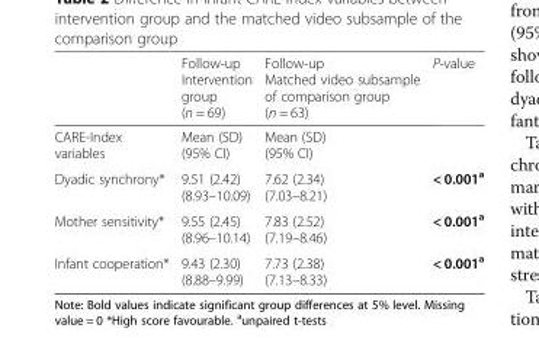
<table><thead><tr><td></td><td>Follow-up Intervention group (n = 69)</td><td>Follow-up Matched video subsample of comparison group (n = 63)</td><td>P-value</td></tr></thead><tbody><tr><td>CARE-Index variables</td><td>Mean (SD) (95% CI)</td><td>Mean (SD) (95% CI)</td><td></td></tr><tr><td>Dyadic synchrony*</td><td>9.51 (2.42) (8.93–10.09)</td><td>7.62 (2.34) (7.03–8.21)</td><td>&lt; 0.001<sup>a</sup></td></tr><tr><td>Mother sensitivity*</td><td>9.55 (2.45) (8.96–10.14)</td><td>7.83 (2.52) (7.19–8.46)</td><td>&lt; 0.001<sup>a</sup></td></tr><tr><td>Infant cooperation*</td><td>9.43 (2.30) (8.88–9.99)</td><td>7.73 (2.38) (7.13–8.33)</td><td>&lt; 0.001<sup>a</sup></td></tr></tbody></table>